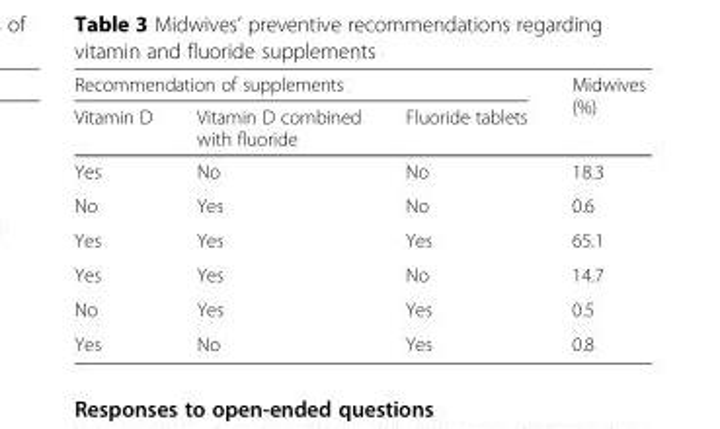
<table><thead><tr><td colspan="3">Recommendation of supplements</td><td rowspan="2">Midwives (%)</td></tr><tr><td>Vitamin D</td><td>Vitamin D combined with fluoride</td><td>Fluoride tablets</td></tr></thead><tbody><tr><td>Yes</td><td>No</td><td>No</td><td>18.3</td></tr><tr><td>No</td><td>Yes</td><td>No</td><td>0.6</td></tr><tr><td>Yes</td><td>Yes</td><td>Yes</td><td>65.1</td></tr><tr><td>Yes</td><td>Yes</td><td>No</td><td>14.7</td></tr><tr><td>No</td><td>Yes</td><td>Yes</td><td>0.5</td></tr><tr><td>Yes</td><td>No</td><td>Yes</td><td>0.8</td></tr></tbody></table>